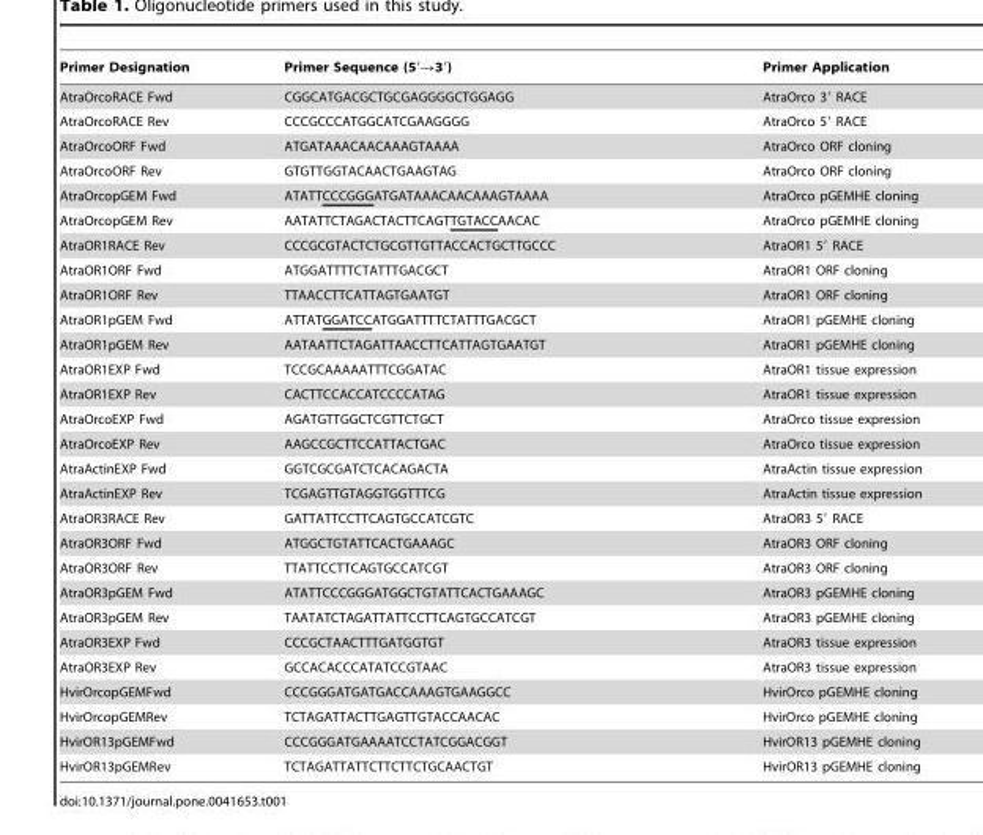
<table><thead><tr><td>Primer Designation</td><td>Primer Sequence (5′→3′)</td><td>Primer Application</td></tr></thead><tbody><tr><td>AtraOrcoRACE Fwd</td><td>CGGCATGACGCTGCGAGGGGCTGGAGG</td><td>AtraOrco 3′ RACE</td></tr><tr><td>AtraOrcoRACE Rev</td><td>CCCGCCCATGGCATCGAAGGGG</td><td>AtraOrco 5′ RACE</td></tr><tr><td>AtraOrcoORF Fwd</td><td>ATGATAAACAACAAAGTAAAA</td><td>AtraOrco ORF cloning</td></tr><tr><td>AtraOrcoORF Rev</td><td>GTGTTGGTACAACTGAAGTAG</td><td>AtraOrco ORF cloning</td></tr><tr><td>AtraOrcopGEM Fwd</td><td>ATATTCCCGGGATGATAAACAACAAAGTAAAA</td><td>AtraOrco pGEMHE cloning</td></tr><tr><td>AtraOrcopGEM Rev</td><td>AATATTCTAGACTACTTCAGTTGTACCAACAC</td><td>AtraOrco pGEMHE cloning</td></tr><tr><td>AtraOR1RACE Rev</td><td>CCCGCGTACTCTGCGTTGTTACCACTGCTTGCCC</td><td>AtraOR1 5′ RACE</td></tr><tr><td>AtraOR1ORF Fwd</td><td>ATGGATTTTCTATTTGACGCT</td><td>AtraOR1 ORF cloning</td></tr><tr><td>AtraOR1ORF Rev</td><td>TTAACCTTCATTAGTGAATGT</td><td>AtraOR1 ORF cloning</td></tr><tr><td>AtraOR1pGEM Fwd</td><td>ATTATGGATCCATGGATTTTCTATTTGACGCT</td><td>AtraOR1 pGEMHE cloning</td></tr><tr><td>AtraOR1pGEM Rev</td><td>AATAATTCTAGATTAACCTTCATTAGTGAATGT</td><td>AtraOR1 pGEMHE cloning</td></tr><tr><td>AtraOR1EXP Fwd</td><td>TCCGCAAAAATTTCGGATAC</td><td>AtraOR1 tissue expression</td></tr><tr><td>AtraOR1EXP Rev</td><td>CACTTCCACCATCCCCATAG</td><td>AtraOR1 tissue expression</td></tr><tr><td>AtraOrcoEXP Fwd</td><td>AGATGTTGGCTCGTTCTGCT</td><td>AtraOrco tissue expression</td></tr><tr><td>AtraOrcoEXP Rev</td><td>AAGCCGCTTCCATTACTGAC</td><td>AtraOrco tissue expression</td></tr><tr><td>AtraActinEXP Fwd</td><td>GGTCGCGATCTCACAGACTA</td><td>AtraActin tissue expression</td></tr><tr><td>AtraActinEXP Rev</td><td>TCGAGTTGTAGGTGGTTTCG</td><td>AtraActin tissue expression</td></tr><tr><td>AtraOR3RACE Rev</td><td>GATTATTCCTTCAGTGCCATCGTC</td><td>AtraOR3 5′ RACE</td></tr><tr><td>AtraOR3ORF Fwd</td><td>ATGGCTGTATTCACTGAAAGC</td><td>AtraOR3 ORF cloning</td></tr><tr><td>AtraOR3ORF Rev</td><td>TTATTCCTTCAGTGCCATCGT</td><td>AtraOR3 ORF cloning</td></tr><tr><td>AtraOR3pGEM Fwd</td><td>ATATTCCCGGGATGGCTGTATTCACTGAAAGC</td><td>AtraOR3 pGEMHE cloning</td></tr><tr><td>AtraOR3pGEM Rev</td><td>TAATATCTAGATTATTCCTTCAGTGCCATCGT</td><td>AtraOR3 pGEMHE cloning</td></tr><tr><td>AtraOR3EXP Fwd</td><td>CCCGCTAACTTTGATGGTGT</td><td>AtraOR3 tissue expression</td></tr><tr><td>AtraOR3EXP Rev</td><td>GCCACACCCATATCCGTAAC</td><td>AtraOR3 tissue expression</td></tr><tr><td>HvirOrcopGEMFwd</td><td>CCCGGGATGATGACCAAAGTGAAGGCC</td><td>HvirOrco pGEMHE cloning</td></tr><tr><td>HvirOrcopGEMRev</td><td>TCTAGATTACTTGAGTTGTACCAACAC</td><td>HvirOrco pGEMHE cloning</td></tr><tr><td>HvirOR13pGEMFwd</td><td>CCCGGGATGAAAATCCTATCGGACGGT</td><td>HvirOR13 pGEMHE cloning</td></tr><tr><td>HvirOR13pGEMRev</td><td>TCTAGATTATTCTTCTTCTGCAACTGT</td><td>HvirOR13 pGEMHE cloning</td></tr></tbody></table>